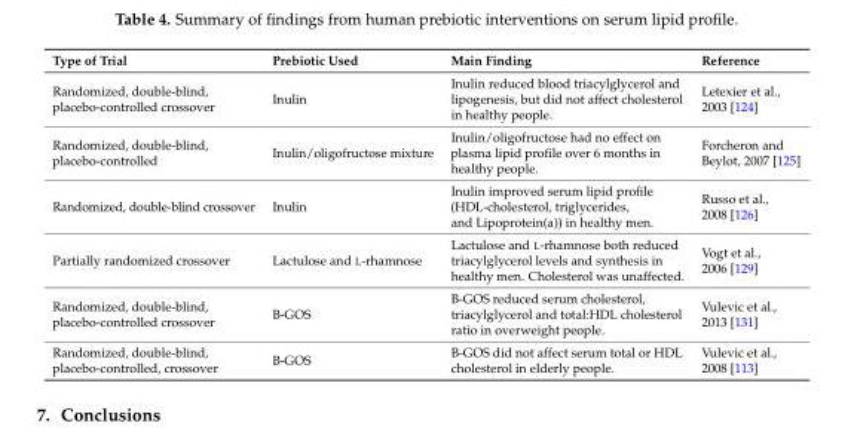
<table><thead><tr><td>Type of Trial</td><td>Prebiotic Used</td><td>Main Finding</td><td>Reference</td></tr></thead><tbody><tr><td>Randomized, double-blind, placebo-controlled crossover</td><td>Inulin</td><td>Inulin reduced blood triacylglycerol and lipogenesis, but did not affect cholesterol in healthy people.</td><td>Letexier et al., 2003 [124]</td></tr><tr><td>Randomized, double-blind, placebo-controlled</td><td>Inulin/oligofructose mixture</td><td>Inulin/oligofructose had no effect on plasma lipid profile over 6 months in healthy people.</td><td>Forcheron and Beylot, 2007 [125]</td></tr><tr><td>Randomized, double-blind crossover</td><td>Inulin</td><td>Inulin improved serum lipid profile (HDL-cholesterol, triglycerides, and Lipoprotein(a)) in healthy men.</td><td>Russo et al., 2008 [126]</td></tr><tr><td>Partially randomized crossover</td><td>Lactulose and L-rhamnose</td><td>Lactulose and L-rhamnose both reduced triacylglycerol levels and synthesis in healthy men. Cholesterol was unaffected.</td><td>Vogt et al., 2006 [129]</td></tr><tr><td>Randomized, double-blind, placebo-controlled crossover</td><td>B-GOS</td><td>B-GOS reduced serum cholesterol, triacylglycerol and total:HDL cholesterol ratio in overweight people.</td><td>Vulevic et al., 2013 [131]</td></tr><tr><td>Randomized, double-blind, placebo-controlled, crossover</td><td>B-GOS</td><td>B-GOS did not affect serum total or HDL cholesterol in elderly people.</td><td>Vulevic et al., 2008 [113]</td></tr></tbody></table>